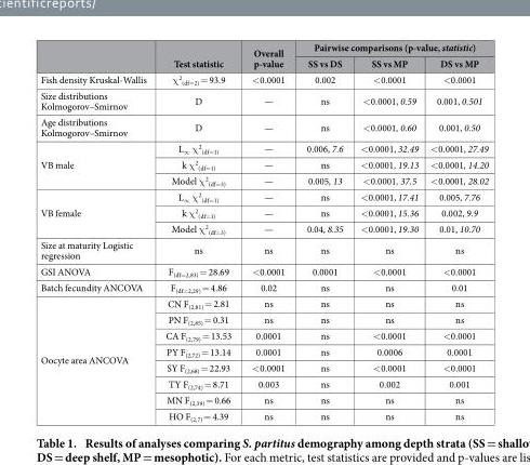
<table><thead><tr><td rowspan="2"></td><td rowspan="2">Test statistic</td><td rowspan="2">Overall p-value</td><td colspan="3">Pairwise comparisons (p-value, statistic)</td></tr><tr><td>SS vs DS</td><td>SS vs MP</td><td>DS vs MP</td></tr></thead><tbody><tr><td>Fish density Kruskal-Wallis</td><td>χ <sup>2</sup> <sub>(df=2)</sub> = 93.9</td><td>&lt; 0.0001</td><td>0.002</td><td>&lt; 0.0001</td><td>&lt; 0.0001</td></tr><tr><td>Size distributions Kolmogorov–Smirnov</td><td>D</td><td>—</td><td>ns</td><td>&lt; 0.0001, 0.59</td><td>0.001, 0.501</td></tr><tr><td>Age distributions Kolmogorov–Smirnov</td><td>D</td><td>—</td><td>ns</td><td>&lt; 0.0001, 0.60</td><td>0.001, 0.50</td></tr><tr><td rowspan="3">VB male</td><td>L<sub>∞</sub> χ <sup>2</sup> <sub>(df=1)</sub></td><td>—</td><td>0.006, 7.6</td><td>&lt; 0.0001, 32.49</td><td>&lt; 0.0001, 27.49</td></tr><tr><td>k χ <sup>2</sup> <sub>(df=1)</sub></td><td>—</td><td>ns</td><td>&lt; 0.0001, 19.13</td><td>&lt; 0.0001, 14.20</td></tr><tr><td>Model χ <sup>2</sup> <sub>(df=3)</sub></td><td>—</td><td>0.005, 13</td><td>&lt; 0.0001, 37.5</td><td>&lt; 0.0001, 28.02</td></tr><tr><td rowspan="3">VB female</td><td>L<sub>∞</sub> χ <sup>2</sup> <sub>(df=1)</sub></td><td>—</td><td>ns</td><td>&lt; 0.0001, 17.41</td><td>0.005, 7.76</td></tr><tr><td>k χ <sup>2</sup> <sub>(df=1)</sub></td><td>—</td><td>ns</td><td>&lt; 0.0001, 15.36</td><td>0.002, 9.9</td></tr><tr><td>Model χ <sup>2</sup> <sub>(df=3)</sub></td><td>—</td><td>0.04, 8.35</td><td>&lt; 0.0001, 19.30</td><td>0.01, 10.70</td></tr><tr><td>Size at maturity Logistic regression</td><td>ns</td><td>ns</td><td>ns</td><td>ns</td><td>ns</td></tr><tr><td>GSI ANOVA</td><td>F<sub>(df=2,83)</sub> = 28.69</td><td>&lt; 0.0001</td><td>0.0001</td><td>&lt; 0.0001</td><td>&lt; 0.0001</td></tr><tr><td>Batch fecundity ANCOVA</td><td>F<sub>(df=2,29)</sub> = 4.86</td><td>0.02</td><td>ns</td><td>ns</td><td>0.01</td></tr><tr><td rowspan="8">Oocyte area ANCOVA</td><td>CN F<sub>(2,81)</sub> = 2.81</td><td>ns</td><td>ns</td><td>ns</td><td>ns</td></tr><tr><td>PN F<sub>(2,85)</sub> = 0.31</td><td>ns</td><td>ns</td><td>ns</td><td>ns</td></tr><tr><td>CA F<sub>(2,79)</sub> = 13.53</td><td>0.0001</td><td>ns</td><td>&lt; 0.0001</td><td>&lt; 0.0001</td></tr><tr><td>PY F<sub>(2,72)</sub> = 13.14</td><td>0.0001</td><td>ns</td><td>0.0006</td><td>0.0001</td></tr><tr><td>SY F<sub>(2,68)</sub> = 22.93</td><td>&lt; 0.0001</td><td>ns</td><td>&lt; 0.0001</td><td>&lt; 0.0001</td></tr><tr><td>TY F<sub>(2,74)</sub> = 8.71</td><td>0.003</td><td>ns</td><td>0.002</td><td>0.001</td></tr><tr><td>MN F<sub>(2,39)</sub> = 0.66</td><td>ns</td><td>ns</td><td>ns</td><td>ns</td></tr><tr><td>HO F<sub>(2,7)</sub> = 4.39</td><td>ns</td><td>ns</td><td>ns</td><td>ns</td></tr></tbody></table>